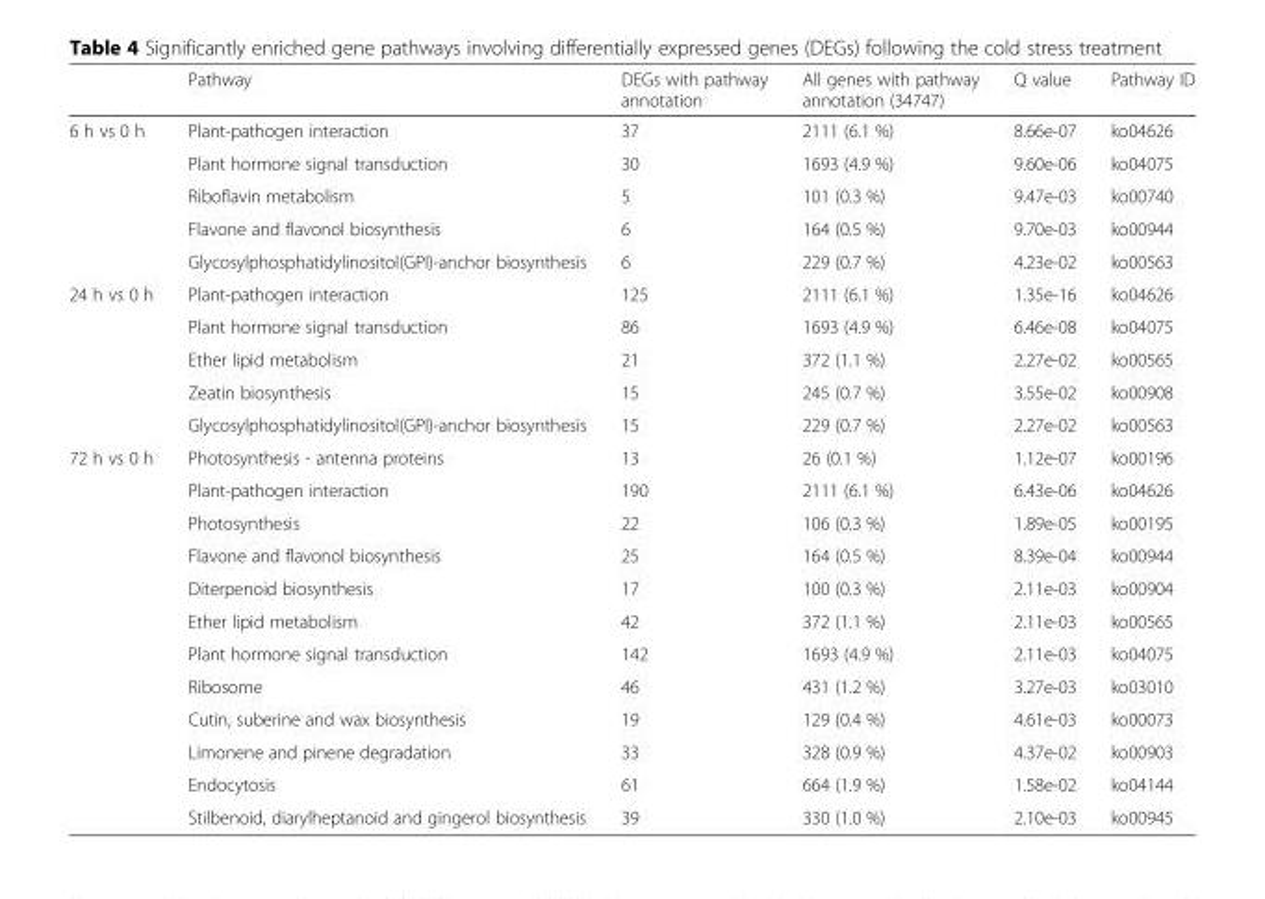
<table><thead><tr><td></td><td>Pathway</td><td>DEGs with pathway annotation</td><td>All genes with pathway annotation (34747)</td><td>Q value</td><td>Pathway ID</td></tr></thead><tbody><tr><td rowspan="5">6 h vs 0 h</td><td>Plant-pathogen interaction</td><td>37</td><td>2111 (6.1 %)</td><td>8.66e-07</td><td>ko04626</td></tr><tr><td>Plant hormone signal transduction</td><td>30</td><td>1693 (4.9 %)</td><td>9.60e-06</td><td>ko04075</td></tr><tr><td>Riboflavin metabolism</td><td>5</td><td>101 (0.3 %)</td><td>9.47e-03</td><td>ko00740</td></tr><tr><td>Flavone and flavonol biosynthesis</td><td>6</td><td>164 (0.5 %)</td><td>9.70e-03</td><td>ko00944</td></tr><tr><td>Glycosylphosphatidylinositol(GPI)-anchor biosynthesis</td><td>6</td><td>229 (0.7 %)</td><td>4.23e-02</td><td>ko00563</td></tr><tr><td rowspan="5">24 h vs 0 h</td><td>Plant-pathogen interaction</td><td>125</td><td>2111 (6.1 %)</td><td>1.35e-16</td><td>ko04626</td></tr><tr><td>Plant hormone signal transduction</td><td>86</td><td>1693 (4.9 %)</td><td>6.46e-08</td><td>ko04075</td></tr><tr><td>Ether lipid metabolism</td><td>21</td><td>372 (1.1 %)</td><td>2.27e-02</td><td>ko00565</td></tr><tr><td>Zeatin biosynthesis</td><td>15</td><td>245 (0.7 %)</td><td>3.55e-02</td><td>ko00908</td></tr><tr><td>Glycosylphosphatidylinositol(GPI)-anchor biosynthesis</td><td>15</td><td>229 (0.7 %)</td><td>2.27e-02</td><td>ko00563</td></tr><tr><td rowspan="12">72 h vs 0 h</td><td>Photosynthesis - antenna proteins</td><td>13</td><td>26 (0.1 %)</td><td>1.12e-07</td><td>ko00196</td></tr><tr><td>Plant-pathogen interaction</td><td>190</td><td>2111 (6.1 %)</td><td>6.43e-06</td><td>ko04626</td></tr><tr><td>Photosynthesis</td><td>22</td><td>106 (0.3 %)</td><td>1.89e-05</td><td>ko00195</td></tr><tr><td>Flavone and flavonol biosynthesis</td><td>25</td><td>164 (0.5 %)</td><td>8.39e-04</td><td>ko00944</td></tr><tr><td>Diterpenoid biosynthesis</td><td>17</td><td>100 (0.3 %)</td><td>2.11e-03</td><td>ko00904</td></tr><tr><td>Ether lipid metabolism</td><td>42</td><td>372 (1.1 %)</td><td>2.11e-03</td><td>ko00565</td></tr><tr><td>Plant hormone signal transduction</td><td>142</td><td>1693 (4.9 %)</td><td>2.11e-03</td><td>ko04075</td></tr><tr><td>Ribosome</td><td>46</td><td>431 (1.2 %)</td><td>3.27e-03</td><td>ko03010</td></tr><tr><td>Cutin, suberine and wax biosynthesis</td><td>19</td><td>129 (0.4 %)</td><td>4.61e-03</td><td>ko00073</td></tr><tr><td>Limonene and pinene degradation</td><td>33</td><td>328 (0.9 %)</td><td>4.37e-02</td><td>ko00903</td></tr><tr><td>Endocytosis</td><td>61</td><td>664 (1.9 %)</td><td>1.58e-02</td><td>ko04144</td></tr><tr><td>Stilbenoid, diarylheptanoid and gingerol biosynthesis</td><td>39</td><td>330 (1.0 %)</td><td>2.10e-03</td><td>ko00945</td></tr></tbody></table>